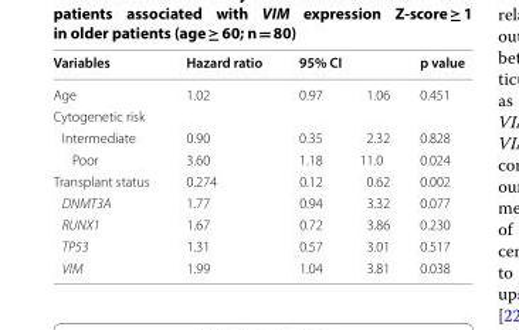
<table><thead><tr><td rowspan="2">Variables Age</td><td rowspan="2">Hazard ratio 1.02</td><td colspan="2">95% CI</td><td rowspan="2">p value 0.451</td></tr><tr><td>0.97</td><td>1.06</td></tr></thead><tbody><tr><td colspan="5">Cytogenetic risk</td></tr><tr><td>Intermediate</td><td>0.90</td><td>0.35</td><td>2.32</td><td>0.828</td></tr><tr><td>Poor</td><td>3.60</td><td>1.18</td><td>11.0</td><td>0.024</td></tr><tr><td>Transplant status</td><td>0.274</td><td>0.12</td><td>0.62</td><td>0.002</td></tr><tr><td>DNMT3A</td><td>1.77</td><td>0.94</td><td>3.32</td><td>0.077</td></tr><tr><td>RUNX1</td><td>1.67</td><td>0.72</td><td>3.86</td><td>0.230</td></tr><tr><td>TP53</td><td>1.31</td><td>0.57</td><td>3.01</td><td>0.517</td></tr><tr><td>VIM</td><td>1.99</td><td>1.04</td><td>3.81</td><td>0.038</td></tr></tbody></table>